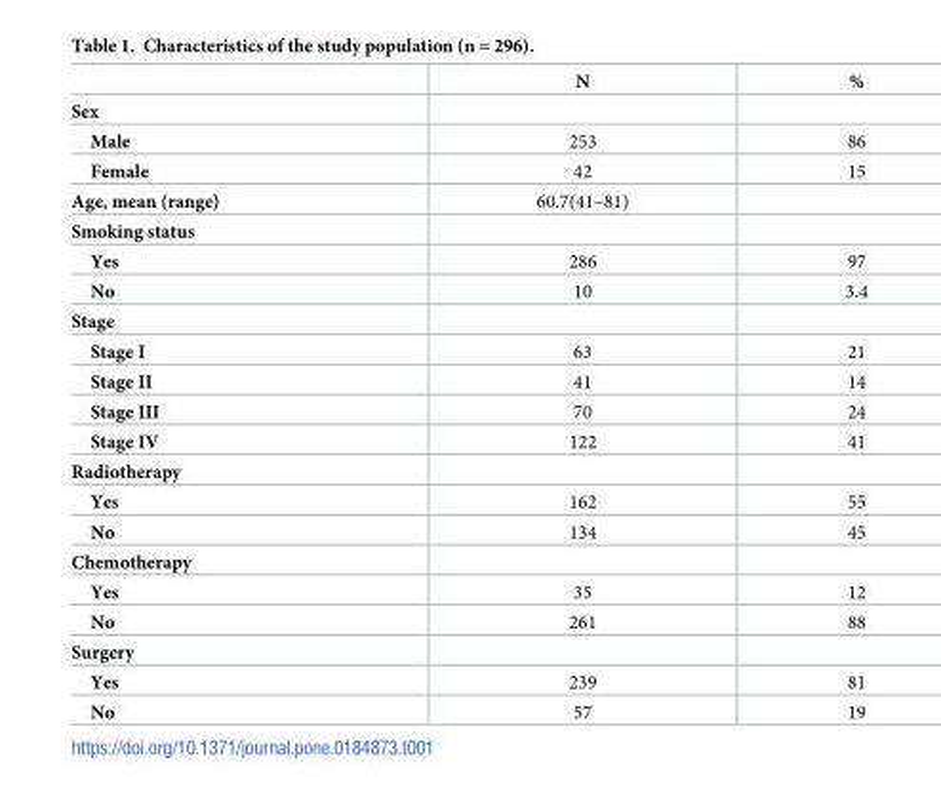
<table><thead><tr><td></td><td>N</td><td>%</td></tr></thead><tbody><tr><td colspan="3">Sex</td></tr><tr><td>Male</td><td>253</td><td>86</td></tr><tr><td>Female</td><td>42</td><td>15</td></tr><tr><td>Age, mean (range)</td><td>60.7(41–81)</td><td></td></tr><tr><td colspan="3">Smoking status</td></tr><tr><td>Yes</td><td>286</td><td>97</td></tr><tr><td>No</td><td>10</td><td>3.4</td></tr><tr><td colspan="3">Stage</td></tr><tr><td>Stage I</td><td>63</td><td>21</td></tr><tr><td>Stage II</td><td>41</td><td>14</td></tr><tr><td>Stage III</td><td>70</td><td>24</td></tr><tr><td>Stage IV</td><td>122</td><td>41</td></tr><tr><td colspan="3">Radiotherapy</td></tr><tr><td>Yes</td><td>162</td><td>55</td></tr><tr><td>No</td><td>134</td><td>45</td></tr><tr><td colspan="3">Chemotherapy</td></tr><tr><td>Yes</td><td>35</td><td>12</td></tr><tr><td>No</td><td>261</td><td>88</td></tr><tr><td colspan="3">Surgery</td></tr><tr><td>Yes</td><td>239</td><td>81</td></tr><tr><td>No</td><td>57</td><td>19</td></tr></tbody></table>